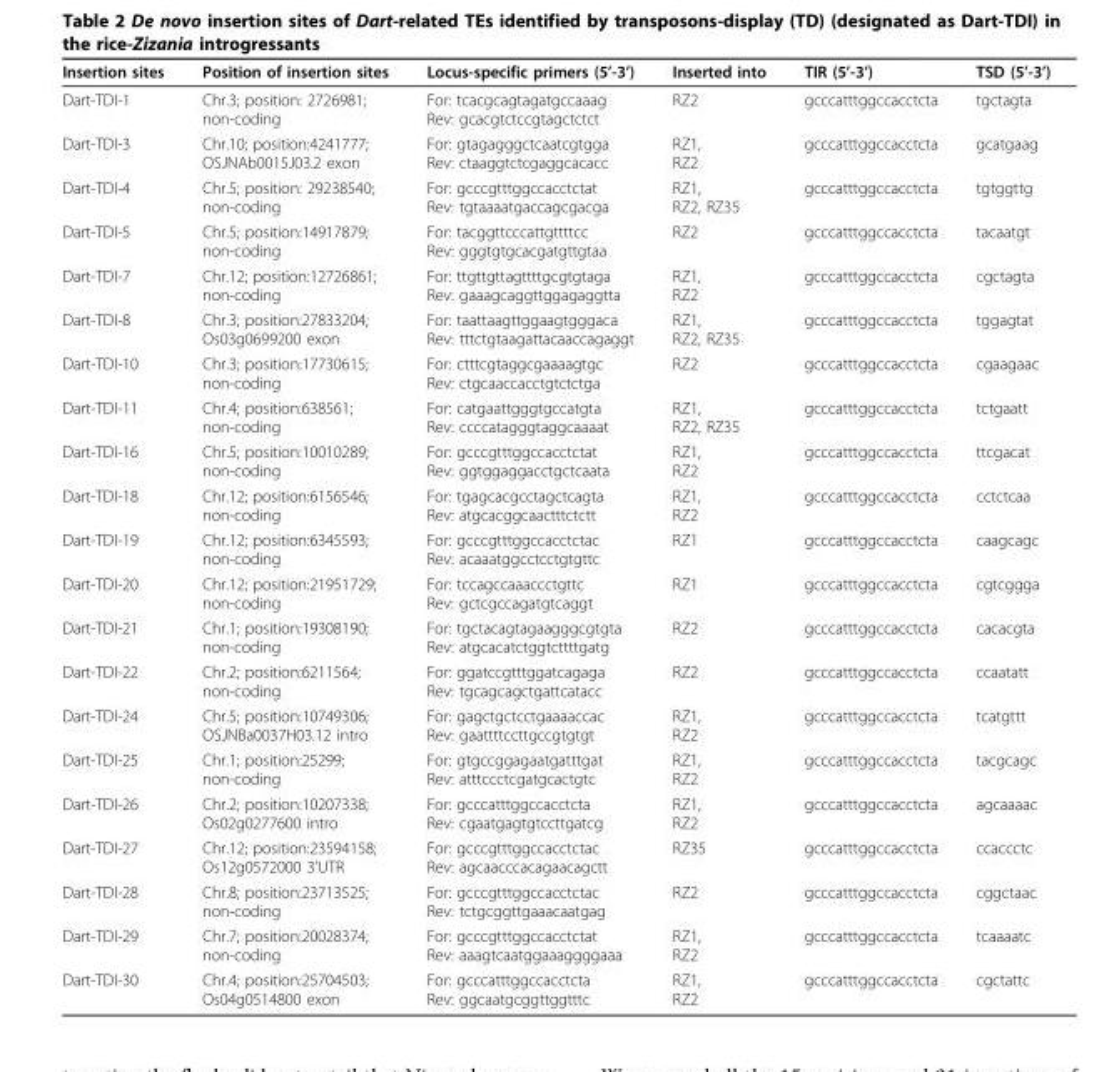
<table><thead><tr><td>Insertion sites</td><td>Position of insertion sites</td><td>Locus-specific primers (5’-3’)</td><td>Inserted into</td><td>TIR (5’-3’)</td><td>TSD (5’-3’)</td></tr></thead><tbody><tr><td>Dart-TDI-1</td><td>Chr.3; position: 2726981; non-coding</td><td>For: tcacgcagtagatgccaaag Rev: gcacgtctccgtagctctct</td><td>RZ2</td><td>gcccatttggccacctcta</td><td>tgctagta</td></tr><tr><td>Dart-TDI-3</td><td>Chr.10; position:4241777; OSJNAb0015J03.2 exon</td><td>For: gtagagggctcaatcgtgga Rev: ctaaggtctcgaggcacacc</td><td>RZ1, RZ2</td><td>gcccatttggccacctcta</td><td>gcatgaag</td></tr><tr><td>Dart-TDI-4</td><td>Chr.5; position: 29238540; non-coding</td><td>For: gcccgtttggccacctctat Rev: tgtaaaatgaccagcgacga</td><td>RZ1, RZ2, RZ35</td><td>gcccatttggccacctcta</td><td>tgtggttg</td></tr><tr><td>Dart-TDI-5</td><td>Chr.5; position:14917879; non-coding</td><td>For: tacggttcccattgttttcc Rev: gggtgtgcacgatgttgtaa</td><td>RZ2</td><td>gcccatttggccacctcta</td><td>tacaatgt</td></tr><tr><td>Dart-TDI-7</td><td>Chr.12; position:12726861; non-coding</td><td>For: ttgttgttagttttgcgtgtaga Rev: gaaagcaggttggagaggtta</td><td>RZ1, RZ2</td><td>gcccatttggccacctcta</td><td>cgctagta</td></tr><tr><td>Dart-TDI-8</td><td>Chr.3; position:27833204; Os03g0699200 exon</td><td>For: taattaagttggaagtgggaca Rev: tttctgtaagattacaaccagaggt</td><td>RZ1, RZ2, RZ35</td><td>gcccatttggccacctcta</td><td>tggagtat</td></tr><tr><td>Dart-TDI-10</td><td>Chr.3; position:17730615; non-coding</td><td>For: ctttcgtaggcgaaaagtgc Rev: ctgcaaccacctgtctctga</td><td>RZ2</td><td>gcccatttggccacctcta</td><td>cgaagaac</td></tr><tr><td>Dart-TDI-11</td><td>Chr.4; position:638561; non-coding</td><td>For: catgaattgggtgccatgta Rev: ccccatagggtaggcaaaat</td><td>RZ1, RZ2, RZ35</td><td>gcccatttggccacctcta</td><td>tctgaatt</td></tr><tr><td>Dart-TDI-16</td><td>Chr.5; position:10010289; non-coding</td><td>For: gcccgtttggccacctctat Rev: ggtggaggacctgctcaata</td><td>RZ1, RZ2</td><td>gcccatttggccacctcta</td><td>ttcgacat</td></tr><tr><td>Dart-TDI-18</td><td>Chr.12; position:6156546; non-coding</td><td>For: tgagcacgcctagctcagta Rev: atgcacggcaactttctctt</td><td>RZ1, RZ2</td><td>gcccatttggccacctcta</td><td>cctctcaa</td></tr><tr><td>Dart-TDI-19</td><td>Chr.12; position:6345593; non-coding</td><td>For: gcccgtttggccacctctac Rev: acaaatggcctcctgtgttc</td><td>RZ1</td><td>gcccatttggccacctcta</td><td>caagcagc</td></tr><tr><td>Dart-TDI-20</td><td>Chr.12; position:21951729; non-coding</td><td>For: tccagccaaaccctgttc Rev: gctcgccagatgtcaggt</td><td>RZ1</td><td>gcccatttggccacctcta</td><td>cgtcggga</td></tr><tr><td>Dart-TDI-21</td><td>Chr.1; position:19308190; non-coding</td><td>For: tgctacagtagaagggcgtgta Rev: atgcacatctggtcttttgatg</td><td>RZ2</td><td>gcccatttggccacctcta</td><td>cacacgta</td></tr><tr><td>Dart-TDI-22</td><td>Chr.2; position:6211564; non-coding</td><td>For: ggatccgtttggatcagaga Rev: tgcagcagctgattcatacc</td><td>RZ2</td><td>gcccatttggccacctcta</td><td>ccaatatt</td></tr><tr><td>Dart-TDI-24</td><td>Chr.5; position:10749306; OSJNBa0037H03.12 intro</td><td>For: gagctgctcctgaaaaccac Rev: gaattttccttgccgtgtgt</td><td>RZ1, RZ2</td><td>gcccatttggccacctcta</td><td>tcatgttt</td></tr><tr><td>Dart-TDI-25</td><td>Chr.1; position:25299; non-coding</td><td>For: gtgccggagaatgatttgat Rev: atttccctcgatgcactgtc</td><td>RZ1, RZ2</td><td>gcccatttggccacctcta</td><td>tacgcagc</td></tr><tr><td>Dart-TDI-26</td><td>Chr.2; position:10207338; Os02g0277600 intro</td><td>For: gcccatttggccacctcta Rev: cgaatgagtgtccttgatcg</td><td>RZ1, RZ2</td><td>gcccatttggccacctcta</td><td>agcaaaac</td></tr><tr><td>Dart-TDI-27</td><td>Chr.12; position:23594158; Os12g0572000 3’UTR</td><td>For: gcccgtttggccacctctac Rev: agcaacccacagaacagctt</td><td>RZ35</td><td>gcccatttggccacctcta</td><td>ccaccctc</td></tr><tr><td>Dart-TDI-28</td><td>Chr.8; position:23713525; non-coding</td><td>For: gcccgtttggccacctctac Rev: tctgcggttgaaacaatgag</td><td>RZ2</td><td>gcccatttggccacctcta</td><td>cggctaac</td></tr><tr><td>Dart-TDI-29</td><td>Chr.7; position:20028374; non-coding</td><td>For: gcccgtttggccacctctat Rev: aaagtcaatggaaaggggaaa</td><td>RZ1, RZ2</td><td>gcccatttggccacctcta</td><td>tcaaaatc</td></tr><tr><td>Dart-TDI-30</td><td>Chr.4; position:25704503; Os04g0514800 exon</td><td>For: gcccatttggccacctcta Rev: ggcaatgcggttggtttc</td><td>RZ1, RZ2</td><td>gcccatttggccacctcta</td><td>cgctattc</td></tr></tbody></table>